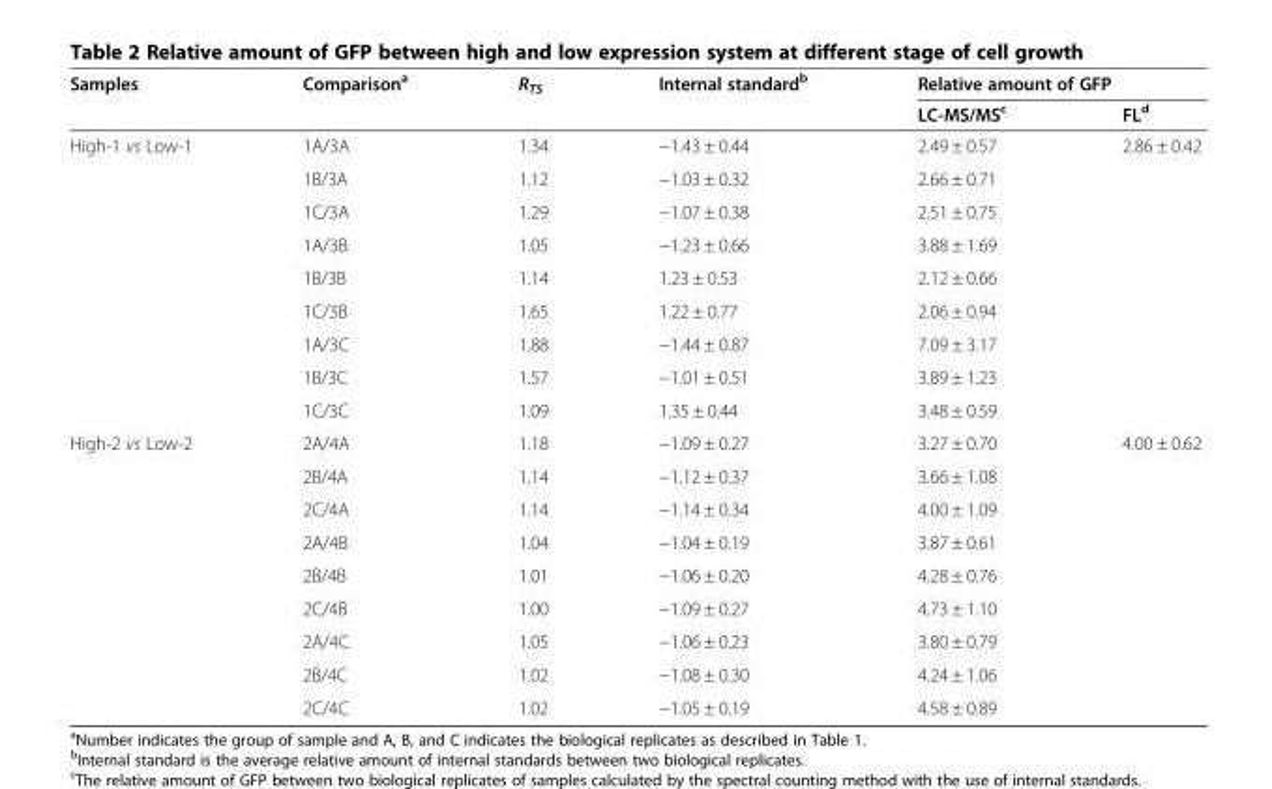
<table><thead><tr><td rowspan="2">Samples</td><td rowspan="2">Comparison<sup>a</sup></td><td rowspan="2">R<sub>TS</sub></td><td rowspan="2">Internal standard<sup>b</sup></td><td colspan="2">Relative amount of GFP</td></tr><tr><td>LC-MS/MS<sup>c</sup></td><td>FL<sup>d</sup></td></tr></thead><tbody><tr><td rowspan="9">High-1 vs Low-1</td><td>1A/3A</td><td>1.34</td><td>−1.43 ± 0.44</td><td>2.49 ± 0.57</td><td>2.86 ± 0.42</td></tr><tr><td>1B/3A</td><td>1.12</td><td>−1.03 ± 0.32</td><td>2.66 ± 0.71</td><td></td></tr><tr><td>1C/3A</td><td>1.29</td><td>−1.07 ± 0.38</td><td>2.51 ± 0.75</td><td></td></tr><tr><td>1A/3B</td><td>1.05</td><td>−1.23 ± 0.66</td><td>3.88 ± 1.69</td><td></td></tr><tr><td>1B/3B</td><td>1.14</td><td>1.23 ± 0.53</td><td>2.12 ± 0.66</td><td></td></tr><tr><td>1C/3B</td><td>1.65</td><td>1.22 ± 0.77</td><td>2.06 ± 0.94</td><td></td></tr><tr><td>1A/3C</td><td>1.88</td><td>−1.44 ± 0.87</td><td>7.09 ± 3.17</td><td></td></tr><tr><td>1B/3C</td><td>1.57</td><td>−1.01 ± 0.51</td><td>3.89 ± 1.23</td><td></td></tr><tr><td>1C/3C</td><td>1.09</td><td>1.35 ± 0.44</td><td>3.48 ± 0.59</td><td></td></tr><tr><td rowspan="9">High-2 vs Low-2</td><td>2A/4A</td><td>1.18</td><td>−1.09 ± 0.27</td><td>3.27 ± 0.70</td><td>4.00 ± 0.62</td></tr><tr><td>2B/4A</td><td>1.14</td><td>−1.12 ± 0.37</td><td>3.66 ± 1.08</td><td></td></tr><tr><td>2C/4A</td><td>1.14</td><td>−1.14 ± 0.34</td><td>4.00 ± 1.09</td><td></td></tr><tr><td>2A/4B</td><td>1.04</td><td>−1.04 ± 0.19</td><td>3.87 ± 0.61</td><td></td></tr><tr><td>2B/4B</td><td>1.01</td><td>−1.06 ± 0.20</td><td>4.28 ± 0.76</td><td></td></tr><tr><td>2C/4B</td><td>1.00</td><td>−1.09 ± 0.27</td><td>4.73 ± 1.10</td><td></td></tr><tr><td>2A/4C</td><td>1.05</td><td>−1.06 ± 0.23</td><td>3.80 ± 0.79</td><td></td></tr><tr><td>2B/4C</td><td>1.02</td><td>−1.08 ± 0.30</td><td>4.24 ± 1.06</td><td></td></tr><tr><td>2C/4C</td><td>1.02</td><td>−1.05 ± 0.19</td><td>4.58 ± 0.89</td><td></td></tr></tbody></table>